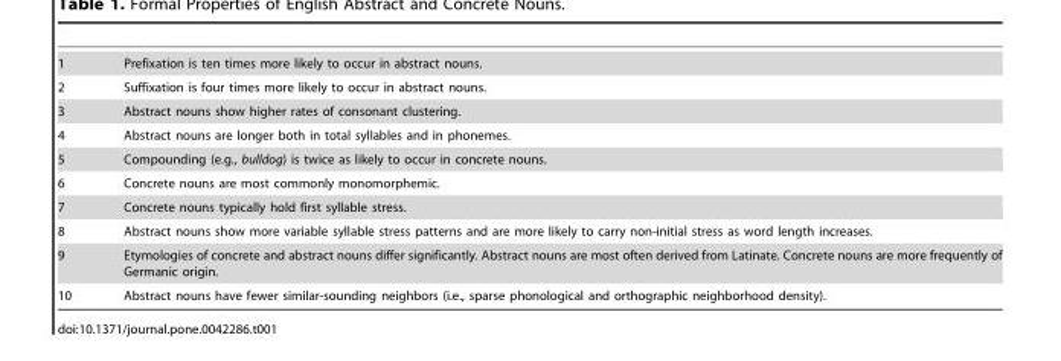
<table><tbody><tr><td>1</td><td>Prefixation is ten times more likely to occur in abstract nouns.</td></tr><tr><td>2</td><td>Suffixation is four times more likely to occur in abstract nouns.</td></tr><tr><td>3</td><td>Abstract nouns show higher rates of consonant clustering.</td></tr><tr><td>4</td><td>Abstract nouns are longer both in total syllables and in phonemes.</td></tr><tr><td>5</td><td>Compounding (e.g., bulldog) is twice as likely to occur in concrete nouns.</td></tr><tr><td>6</td><td>Concrete nouns are most commonly monomorphemic.</td></tr><tr><td>7</td><td>Concrete nouns typically hold first syllable stress.</td></tr><tr><td>8</td><td>Abstract nouns show more variable syllable stress patterns and are more likely to carry non-initial stress as word length increases.</td></tr><tr><td>9</td><td>Etymologies of concrete and abstract nouns differ significantly. Abstract nouns are most often derived from Latinate. Concrete nouns are more frequently of Germanic origin.</td></tr><tr><td>10</td><td>Abstract nouns have fewer similar-sounding neighbors (i.e., sparse phonological and orthographic neighborhood density).</td></tr></tbody></table>